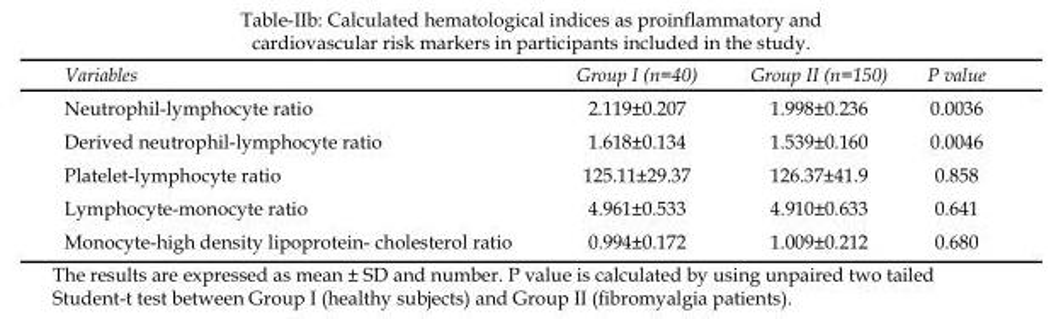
<table><thead><tr><td>Variables</td><td>Group I (n=40)</td><td>Group II (n=150)</td><td>P value</td></tr></thead><tbody><tr><td>Neutrophil-lymphocyte ratio</td><td>2.119±0.207</td><td>1.998±0.236</td><td>0.0036</td></tr><tr><td>Derived neutrophil-lymphocyte ratio</td><td>1.618±0.134</td><td>1.539±0.160</td><td>0.0046</td></tr><tr><td>Platelet-lymphocyte ratio</td><td>125.11±29.37</td><td>126.37±41.9</td><td>0.858</td></tr><tr><td>Lymphocyte-monocyte ratio</td><td>4.961±0.533</td><td>4.910±0.633</td><td>0.641</td></tr><tr><td>Monocyte-high density lipoprotein- cholesterol ratio</td><td>0.994±0.172</td><td>1.009±0.212</td><td>0.680</td></tr></tbody></table>